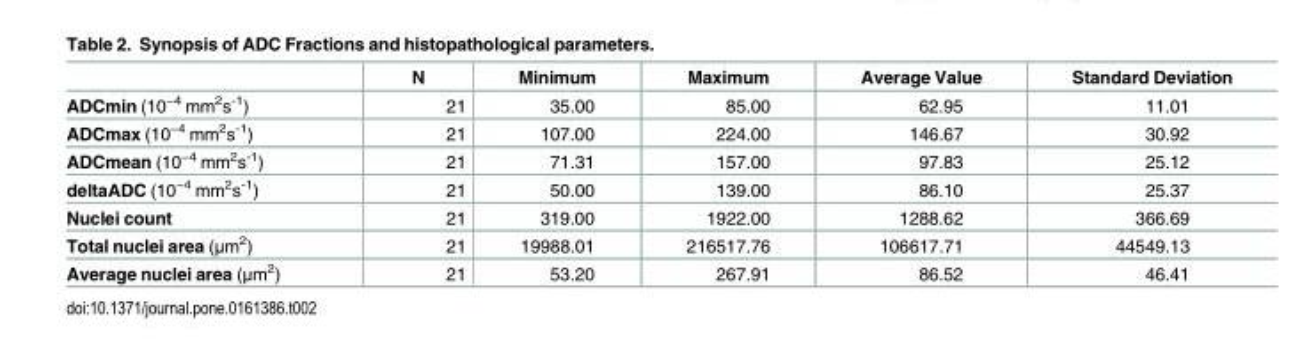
<table><thead><tr><td></td><td>N</td><td>Minimum</td><td>Maximum</td><td>Average Value</td><td>Standard Deviation</td></tr></thead><tbody><tr><td>ADCmin (10<sup>−4</sup> mm<sup>2</sup>s<sup>-1</sup>)</td><td>21</td><td>35.00</td><td>85.00</td><td>62.95</td><td>11.01</td></tr><tr><td>ADCmax (10<sup>−4</sup> mm<sup>2</sup>s<sup>-1</sup>)</td><td>21</td><td>107.00</td><td>224.00</td><td>146.67</td><td>30.92</td></tr><tr><td>ADCmean (10<sup>−4</sup> mm<sup>2</sup>s<sup>-1</sup>)</td><td>21</td><td>71.31</td><td>157.00</td><td>97.83</td><td>25.12</td></tr><tr><td>deltaADC (10<sup>−4</sup> mm<sup>2</sup>s<sup>-1</sup>)</td><td>21</td><td>50.00</td><td>139.00</td><td>86.10</td><td>25.37</td></tr><tr><td>Nuclei count</td><td>21</td><td>319.00</td><td>1922.00</td><td>1288.62</td><td>366.69</td></tr><tr><td>Total nuclei area (μm<sup>2</sup>)</td><td>21</td><td>19988.01</td><td>216517.76</td><td>106617.71</td><td>44549.13</td></tr><tr><td>Average nuclei area (μm<sup>2</sup>)</td><td>21</td><td>53.20</td><td>267.91</td><td>86.52</td><td>46.41</td></tr></tbody></table>